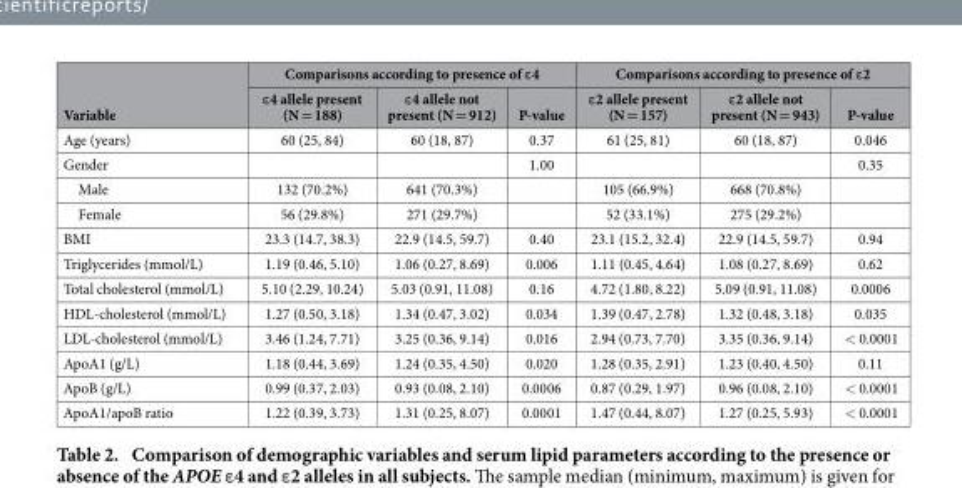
<table><thead><tr><td rowspan="2">Variable</td><td colspan="3">Comparisons according to presence of ε4</td><td colspan="3">Comparisons according to presence of ε2</td></tr><tr><td>ε4 allele present (N = 188)</td><td>ε4 allele not present (N = 912)</td><td>P-value</td><td>ε2 allele present (N = 157)</td><td>ε2 allele not present (N = 943)</td><td>P-value</td></tr></thead><tbody><tr><td>Age (years)</td><td>60 (25, 84)</td><td>60 (18, 87)</td><td>0.37</td><td>61 (25, 81)</td><td>60 (18, 87)</td><td>0.046</td></tr><tr><td>Gender</td><td></td><td></td><td>1.00</td><td></td><td></td><td>0.35</td></tr><tr><td>Male</td><td>132 (70.2%)</td><td>641 (70.3%)</td><td></td><td>105 (66.9%)</td><td>668 (70.8%)</td><td></td></tr><tr><td>Female</td><td>56 (29.8%)</td><td>271 (29.7%)</td><td></td><td>52 (33.1%)</td><td>275 (29.2%)</td><td></td></tr><tr><td>BMI</td><td>23.3 (14.7, 38.3)</td><td>22.9 (14.5, 59.7)</td><td>0.40</td><td>23.1 (15.2, 32.4)</td><td>22.9 (14.5, 59.7)</td><td>0.94</td></tr><tr><td>Triglycerides (mmol/L)</td><td>1.19 (0.46, 5.10)</td><td>1.06 (0.27, 8.69)</td><td>0.006</td><td>1.11 (0.45, 4.64)</td><td>1.08 (0.27, 8.69)</td><td>0.62</td></tr><tr><td>Total cholesterol (mmol/L)</td><td>5.10 (2.29, 10.24)</td><td>5.03 (0.91, 11.08)</td><td>0.16</td><td>4.72 (1.80, 8.22)</td><td>5.09 (0.91, 11.08)</td><td>0.0006</td></tr><tr><td>HDL-cholesterol (mmol/L)</td><td>1.27 (0.50, 3.18)</td><td>1.34 (0.47, 3.02)</td><td>0.034</td><td>1.39 (0.47, 2.78)</td><td>1.32 (0.48, 3.18)</td><td>0.035</td></tr><tr><td>LDL-cholesterol (mmol/L)</td><td>3.46 (1.24, 7.71)</td><td>3.25 (0.36, 9.14)</td><td>0.016</td><td>2.94 (0.73, 7.70)</td><td>3.35 (0.36, 9.14)</td><td>&lt; 0.0001</td></tr><tr><td>ApoA1 (g/L)</td><td>1.18 (0.44, 3.69)</td><td>1.24 (0.35, 4.50)</td><td>0.020</td><td>1.28 (0.35, 2.91)</td><td>1.23 (0.40, 4.50)</td><td>0.11</td></tr><tr><td>ApoB (g/L)</td><td>0.99 (0.37, 2.03)</td><td>0.93 (0.08, 2.10)</td><td>0.0006</td><td>0.87 (0.29, 1.97)</td><td>0.96 (0.08, 2.10)</td><td>&lt; 0.0001</td></tr><tr><td>ApoA1/apoB ratio</td><td>1.22 (0.39, 3.73)</td><td>1.31 (0.25, 8.07)</td><td>0.0001</td><td>1.47 (0.44, 8.07)</td><td>1.27 (0.25, 5.93)</td><td>&lt; 0.0001</td></tr></tbody></table>